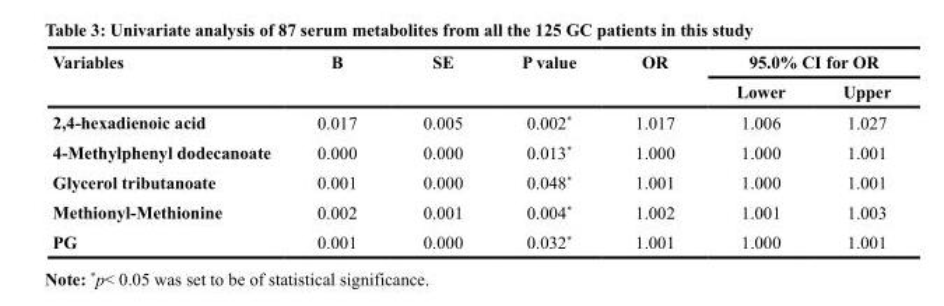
<table><thead><tr><td rowspan="2">Variables</td><td rowspan="2">B</td><td rowspan="2">SE</td><td rowspan="2">P value</td><td rowspan="2">OR</td><td colspan="2">95.0% CI for OR</td></tr><tr><td>Lower</td><td>Upper</td></tr></thead><tbody><tr><td>2,4-hexadienoic acid</td><td>0.017</td><td>0.005</td><td>0.002*</td><td>1.017</td><td>1.006</td><td>1.027</td></tr><tr><td>4-Methylphenyl dodecanoate</td><td>0.000</td><td>0.000</td><td>0.013*</td><td>1.000</td><td>1.000</td><td>1.001</td></tr><tr><td>Glycerol tributanoate</td><td>0.001</td><td>0.000</td><td>0.048*</td><td>1.001</td><td>1.000</td><td>1.001</td></tr><tr><td>Methionyl-Methionine</td><td>0.002</td><td>0.001</td><td>0.004*</td><td>1.002</td><td>1.001</td><td>1.003</td></tr><tr><td>PG</td><td>0.001</td><td>0.000</td><td>0.032*</td><td>1.001</td><td>1.000</td><td>1.001</td></tr></tbody></table>